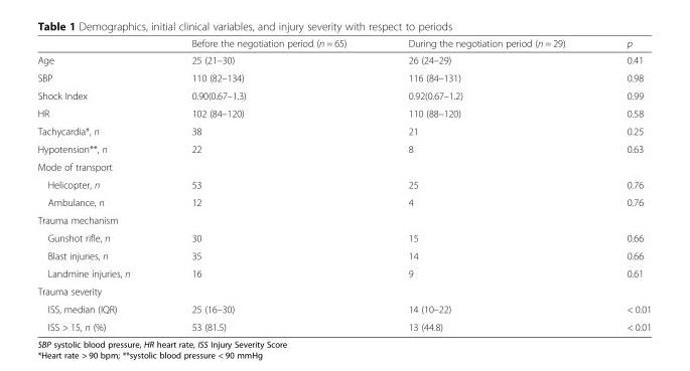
<table><thead><tr><td></td><td>Before the negotiation period (n = 65)</td><td>During the negotiation period (n = 29)</td><td>p</td></tr></thead><tbody><tr><td>Age</td><td>25 (21–30)</td><td>26 (24–29)</td><td>0.41</td></tr><tr><td>SBP</td><td>110 (82–134)</td><td>116 (84–131)</td><td>0.98</td></tr><tr><td>Shock Index</td><td>0.90(0.67–1.3)</td><td>0.92(0.67–1.2)</td><td>0.99</td></tr><tr><td>HR</td><td>102 (84–120)</td><td>110 (88–120)</td><td>0.58</td></tr><tr><td>Tachycardia*, n</td><td>38</td><td>21</td><td>0.25</td></tr><tr><td>Hypotension**, n</td><td>22</td><td>8</td><td>0.63</td></tr><tr><td colspan="4">Mode of transport</td></tr><tr><td>Helicopter, n</td><td>53</td><td>25</td><td>0.76</td></tr><tr><td>Ambulance, n</td><td>12</td><td>4</td><td>0.76</td></tr><tr><td colspan="4">Trauma mechanism</td></tr><tr><td>Gunshot rifle, n</td><td>30</td><td>15</td><td>0.66</td></tr><tr><td>Blast injuries, n</td><td>35</td><td>14</td><td>0.66</td></tr><tr><td>Landmine injuries, n</td><td>16</td><td>9</td><td>0.61</td></tr><tr><td colspan="4">Trauma severity</td></tr><tr><td>ISS, median (IQR)</td><td>25 (16–30)</td><td>14 (10–22)</td><td>&lt; 0.01</td></tr><tr><td>ISS &gt; 15, n (%)</td><td>53 (81.5)</td><td>13 (44.8)</td><td>&lt; 0.01</td></tr></tbody></table>